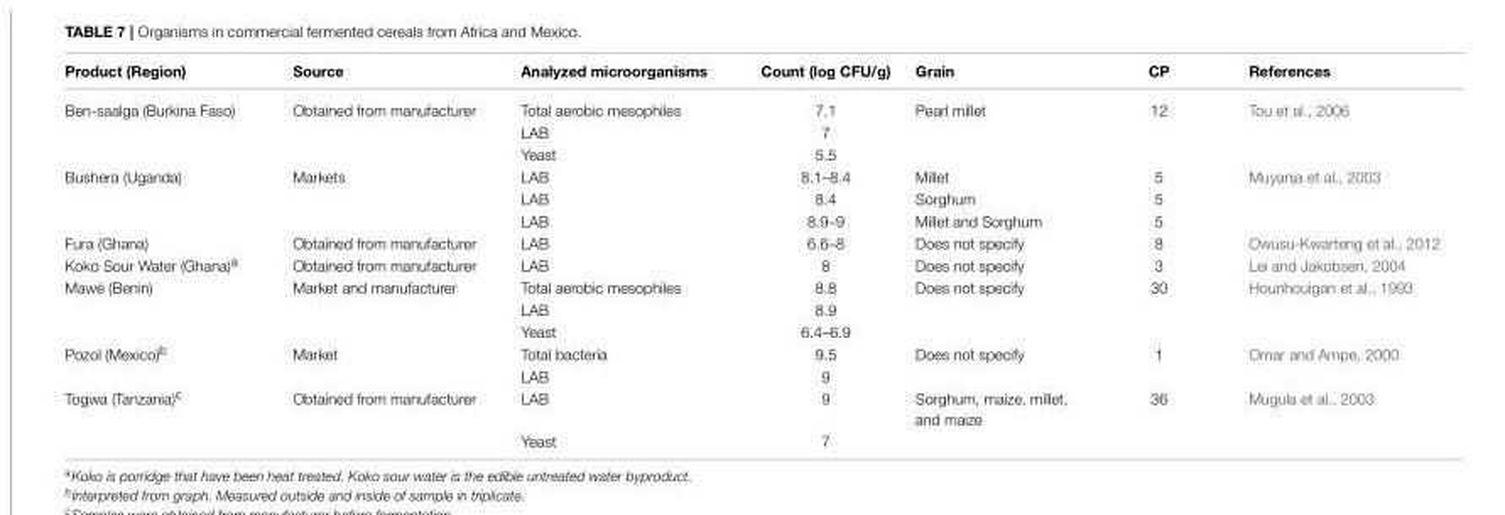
<table><thead><tr><td>Product (Region)</td><td>Source</td><td>Analyzed microorganisms</td><td>Count (log CFU/g)</td><td>Grain</td><td>CP</td><td>References</td></tr></thead><tbody><tr><td rowspan="3">Ben-saalga (Burkina Faso)</td><td>Obtained from manufacturer</td><td>Total aerobic mesophiles</td><td>7.1</td><td>Pearl millet</td><td>12</td><td>Tou et al., 2006</td></tr><tr><td></td><td>LAB</td><td>7</td><td></td><td></td><td></td></tr><tr><td></td><td>Yeast</td><td>5.5</td><td></td><td></td><td></td></tr><tr><td rowspan="3">Bushera (Uganda)</td><td>Markets</td><td>LAB</td><td>8.1–8.4</td><td>Millet</td><td>5</td><td>Muyanja et al., 2003</td></tr><tr><td></td><td>LAB</td><td>8.4</td><td>Sorghum</td><td>5</td><td></td></tr><tr><td></td><td>LAB</td><td>8.9–9</td><td>Millet and Sorghum</td><td>5</td><td></td></tr><tr><td>Fura (Ghana)</td><td>Obtained from manufacturer</td><td>LAB</td><td>6.6–8</td><td>Does not specify</td><td>8</td><td>Owusu-Kwarteng et al., 2012</td></tr><tr><td>Koko Sour Water (Ghana)<sup>a</sup></td><td>Obtained from manufacturer</td><td>LAB</td><td>8</td><td>Does not specify</td><td>3</td><td>Lei and Jakobsen, 2004</td></tr><tr><td rowspan="3">Mawè (Benin)</td><td>Market and manufacturer</td><td>Total aerobic mesophiles</td><td>8.8</td><td>Does not specify</td><td>30</td><td>Hounhouigan et al., 1993</td></tr><tr><td></td><td>LAB</td><td>8.9</td><td></td><td></td><td></td></tr><tr><td></td><td>Yeast</td><td>6.4–6.9</td><td></td><td></td><td></td></tr><tr><td rowspan="2">Pozol (Mexico)<sup>b</sup></td><td>Market</td><td>Total bacteria</td><td>9.5</td><td>Does not specify</td><td>1</td><td>Omar and Ampe, 2000</td></tr><tr><td></td><td>LAB</td><td>9</td><td></td><td></td><td></td></tr><tr><td rowspan="2">Togwa (Tanzania)<sup>c</sup></td><td>Obtained from manufacturer</td><td>LAB</td><td>9</td><td>Sorghum, maize, millet, and maize</td><td>36</td><td>Mugula et al., 2003</td></tr><tr><td></td><td>Yeast</td><td>7</td><td></td><td></td><td></td></tr></tbody></table>